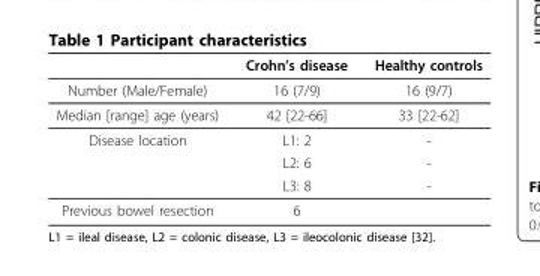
<table><thead><tr><td></td><td>Crohn’s disease</td><td>Healthy controls</td></tr></thead><tbody><tr><td>Number (Male/Female)</td><td>16 (7/9)</td><td>16 (9/7)</td></tr><tr><td>Median [range] age (years)</td><td>42 [22-66]</td><td>33 [22-62]</td></tr><tr><td rowspan="3">Disease location</td><td>L1: 2</td><td>-</td></tr><tr><td>L2: 6</td><td>-</td></tr><tr><td>L3: 8</td><td>-</td></tr><tr><td>Previous bowel resection</td><td>6</td><td></td></tr></tbody></table>